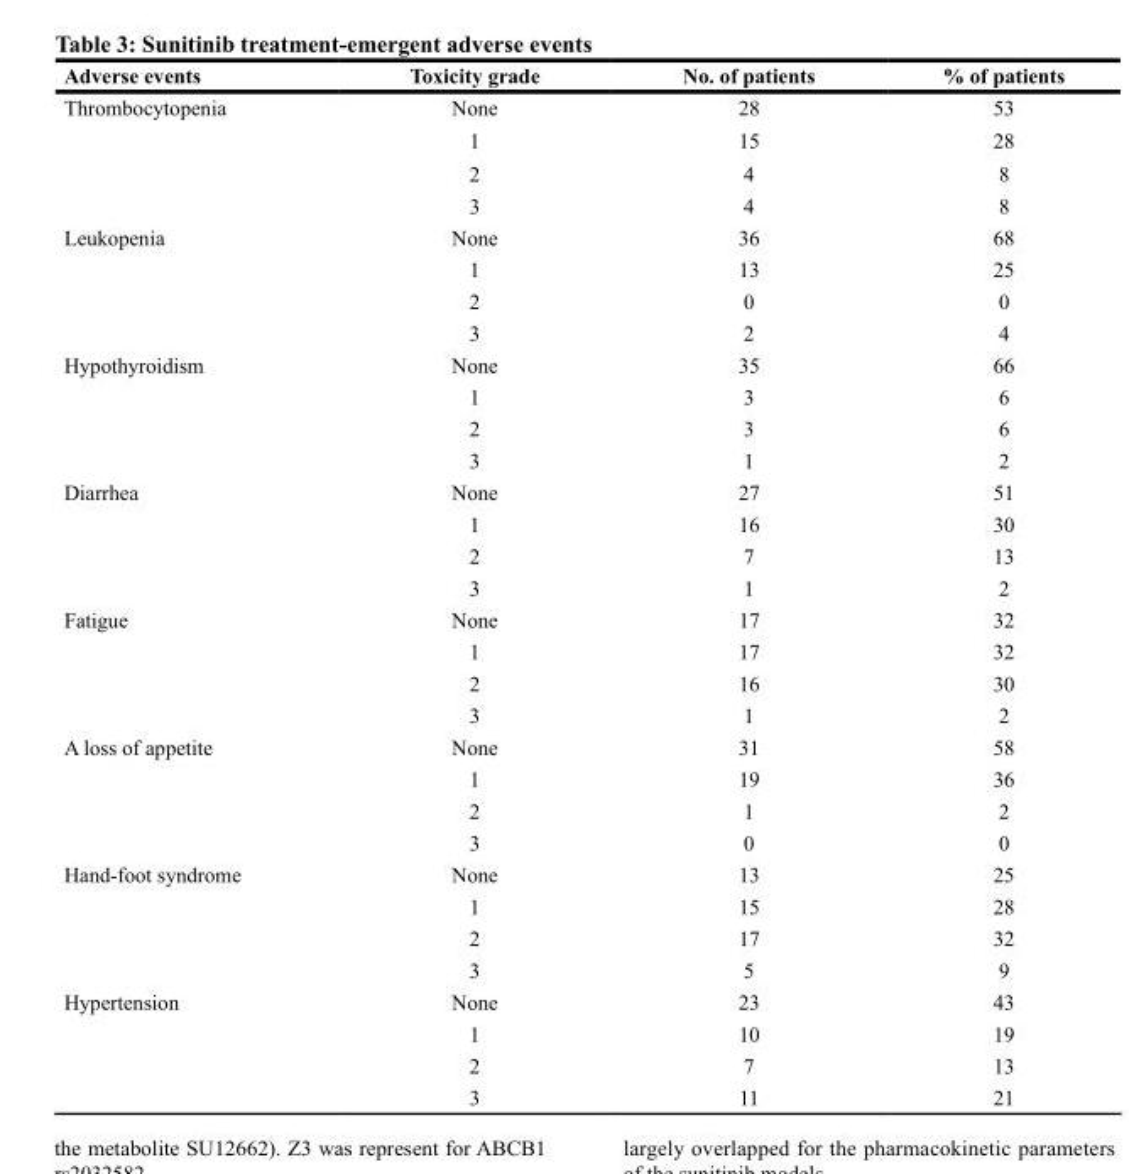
<table><thead><tr><td>Adverse events</td><td>Toxicity grade</td><td>No. of patients</td><td>% of patients</td></tr></thead><tbody><tr><td rowspan="4">Thrombocytopenia</td><td>None</td><td>28</td><td>53</td></tr><tr><td>1</td><td>15</td><td>28</td></tr><tr><td>2</td><td>4</td><td>8</td></tr><tr><td>3</td><td>4</td><td>8</td></tr><tr><td rowspan="4">Leukopenia</td><td>None</td><td>36</td><td>68</td></tr><tr><td>1</td><td>13</td><td>25</td></tr><tr><td>2</td><td>0</td><td>0</td></tr><tr><td>3</td><td>2</td><td>4</td></tr><tr><td rowspan="4">Hypothyroidism</td><td>None</td><td>35</td><td>66</td></tr><tr><td>1</td><td>3</td><td>6</td></tr><tr><td>2</td><td>3</td><td>6</td></tr><tr><td>3</td><td>1</td><td>2</td></tr><tr><td rowspan="4">Diarrhea</td><td>None</td><td>27</td><td>51</td></tr><tr><td>1</td><td>16</td><td>30</td></tr><tr><td>2</td><td>7</td><td>13</td></tr><tr><td>3</td><td>1</td><td>2</td></tr><tr><td rowspan="4">Fatigue</td><td>None</td><td>17</td><td>32</td></tr><tr><td>1</td><td>17</td><td>32</td></tr><tr><td>2</td><td>16</td><td>30</td></tr><tr><td>3</td><td>1</td><td>2</td></tr><tr><td rowspan="4">A loss of appetite</td><td>None</td><td>31</td><td>58</td></tr><tr><td>1</td><td>19</td><td>36</td></tr><tr><td>2</td><td>1</td><td>2</td></tr><tr><td>3</td><td>0</td><td>0</td></tr><tr><td rowspan="4">Hand-foot syndrome</td><td>None</td><td>13</td><td>25</td></tr><tr><td>1</td><td>15</td><td>28</td></tr><tr><td>2</td><td>17</td><td>32</td></tr><tr><td>3</td><td>5</td><td>9</td></tr><tr><td rowspan="4">Hypertension</td><td>None</td><td>23</td><td>43</td></tr><tr><td>1</td><td>10</td><td>19</td></tr><tr><td>2</td><td>7</td><td>13</td></tr><tr><td>3</td><td>11</td><td>21</td></tr></tbody></table>